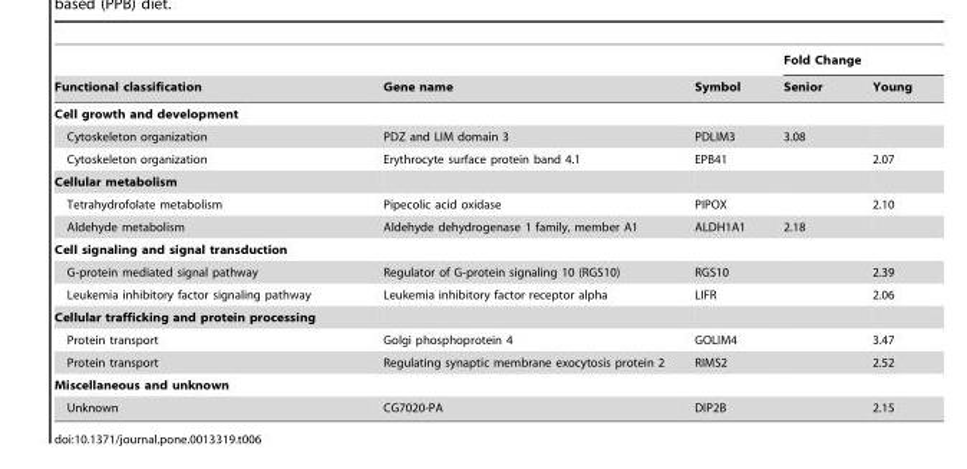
<table><thead><tr><td rowspan="2">Functional classification</td><td rowspan="2">Gene name</td><td rowspan="2">Symbol</td><td colspan="2">Fold Change</td></tr><tr><td>Senior</td><td>Young</td></tr></thead><tbody><tr><td colspan="5">Cell growth and development</td></tr><tr><td>Cytoskeleton organization</td><td>PDZ and LIM domain 3</td><td>PDLIM3</td><td>3.08</td><td></td></tr><tr><td>Cytoskeleton organization</td><td>Erythrocyte surface protein band 4.1</td><td>EPB41</td><td></td><td>2.07</td></tr><tr><td colspan="5">Cellular metabolism</td></tr><tr><td>Tetrahydrofolate metabolism</td><td>Pipecolic acid oxidase</td><td>PIPOX</td><td></td><td>2.10</td></tr><tr><td>Aldehyde metabolism</td><td>Aldehyde dehydrogenase 1 family, member A1</td><td>ALDH1A1</td><td>2.18</td><td></td></tr><tr><td colspan="5">Cell signaling and signal transduction</td></tr><tr><td>G-protein mediated signal pathway</td><td>Regulator of G-protein signaling 10 (RGS10)</td><td>RGS10</td><td></td><td>2.39</td></tr><tr><td>Leukemia inhibitory factor signaling pathway</td><td>Leukemia inhibitory factor receptor alpha</td><td>LIFR</td><td></td><td>2.06</td></tr><tr><td colspan="5">Cellular trafficking and protein processing</td></tr><tr><td>Protein transport</td><td>Golgi phosphoprotein 4</td><td>GOLIM4</td><td></td><td>3.47</td></tr><tr><td>Protein transport</td><td>Regulating synaptic membrane exocytosis protein 2</td><td>RIMS2</td><td></td><td>2.52</td></tr><tr><td colspan="5">Miscellaneous and unknown</td></tr><tr><td>Unknown</td><td>CG7020-PA</td><td>DIP2B</td><td></td><td>2.15</td></tr></tbody></table>